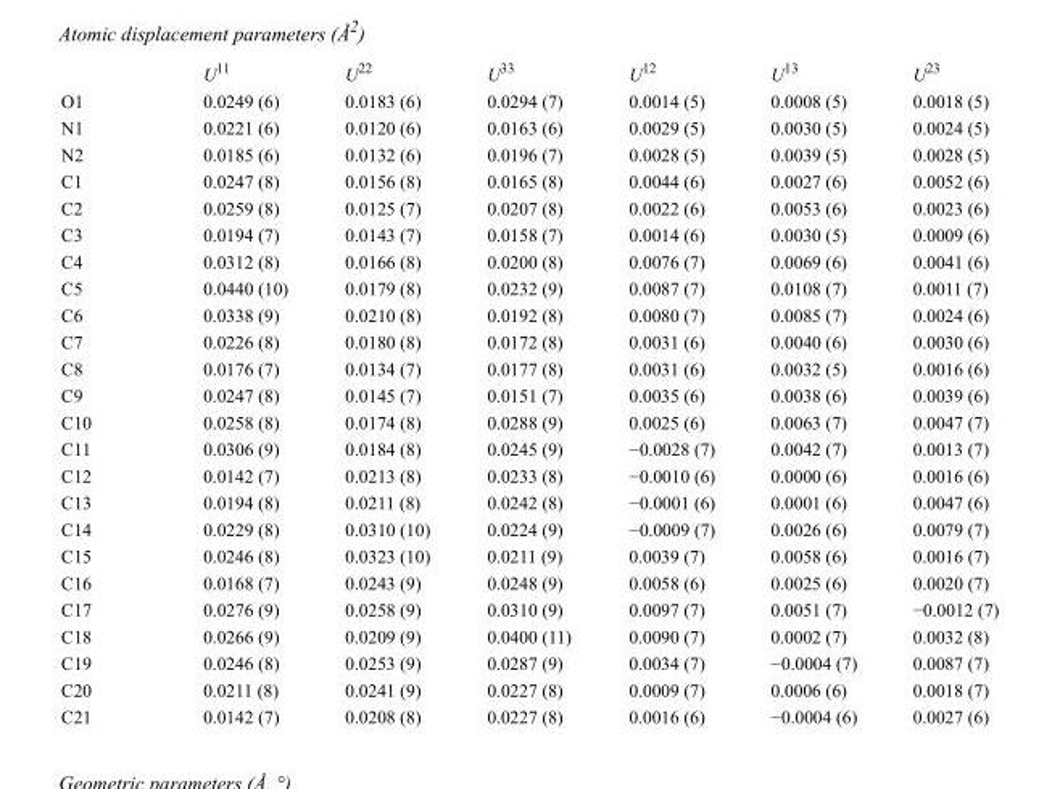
<table><thead><tr><td></td><td>U<sup>11</sup></td><td>U<sup>22</sup></td><td>U<sup>33</sup></td><td>U<sup>12</sup></td><td>U<sup>13</sup></td><td>U<sup>23</sup></td></tr></thead><tbody><tr><td>O1</td><td>0.0249 (6)</td><td>0.0183 (6)</td><td>0.0294 (7)</td><td>0.0014 (5)</td><td>0.0008 (5)</td><td>0.0018 (5)</td></tr><tr><td>N1</td><td>0.0221 (6)</td><td>0.0120 (6)</td><td>0.0163 (6)</td><td>0.0029 (5)</td><td>0.0030 (5)</td><td>0.0024 (5)</td></tr><tr><td>N2</td><td>0.0185 (6)</td><td>0.0132 (6)</td><td>0.0196 (7)</td><td>0.0028 (5)</td><td>0.0039 (5)</td><td>0.0028 (5)</td></tr><tr><td>C1</td><td>0.0247 (8)</td><td>0.0156 (8)</td><td>0.0165 (8)</td><td>0.0044 (6)</td><td>0.0027 (6)</td><td>0.0052 (6)</td></tr><tr><td>C2</td><td>0.0259 (8)</td><td>0.0125 (7)</td><td>0.0207 (8)</td><td>0.0022 (6)</td><td>0.0053 (6)</td><td>0.0023 (6)</td></tr><tr><td>C3</td><td>0.0194 (7)</td><td>0.0143 (7)</td><td>0.0158 (7)</td><td>0.0014 (6)</td><td>0.0030 (5)</td><td>0.0009 (6)</td></tr><tr><td>C4</td><td>0.0312 (8)</td><td>0.0166 (8)</td><td>0.0200 (8)</td><td>0.0076 (7)</td><td>0.0069 (6)</td><td>0.0041 (6)</td></tr><tr><td>C5</td><td>0.0440 (10)</td><td>0.0179 (8)</td><td>0.0232 (9)</td><td>0.0087 (7)</td><td>0.0108 (7)</td><td>0.0011 (7)</td></tr><tr><td>C6</td><td>0.0338 (9)</td><td>0.0210 (8)</td><td>0.0192 (8)</td><td>0.0080 (7)</td><td>0.0085 (7)</td><td>0.0024 (6)</td></tr><tr><td>C7</td><td>0.0226 (8)</td><td>0.0180 (8)</td><td>0.0172 (8)</td><td>0.0031 (6)</td><td>0.0040 (6)</td><td>0.0030 (6)</td></tr><tr><td>C8</td><td>0.0176 (7)</td><td>0.0134 (7)</td><td>0.0177 (8)</td><td>0.0031 (6)</td><td>0.0032 (5)</td><td>0.0016 (6)</td></tr><tr><td>C9</td><td>0.0247 (8)</td><td>0.0145 (7)</td><td>0.0151 (7)</td><td>0.0035 (6)</td><td>0.0038 (6)</td><td>0.0039 (6)</td></tr><tr><td>C10</td><td>0.0258 (8)</td><td>0.0174 (8)</td><td>0.0288 (9)</td><td>0.0025 (6)</td><td>0.0063 (7)</td><td>0.0047 (7)</td></tr><tr><td>C11</td><td>0.0306 (9)</td><td>0.0184 (8)</td><td>0.0245 (9)</td><td>−0.0028 (7)</td><td>0.0042 (7)</td><td>0.0013 (7)</td></tr><tr><td>C12</td><td>0.0142 (7)</td><td>0.0213 (8)</td><td>0.0233 (8)</td><td>−0.0010 (6)</td><td>0.0000 (6)</td><td>0.0016 (6)</td></tr><tr><td>C13</td><td>0.0194 (8)</td><td>0.0211 (8)</td><td>0.0242 (8)</td><td>−0.0001 (6)</td><td>0.0001 (6)</td><td>0.0047 (6)</td></tr><tr><td>C14</td><td>0.0229 (8)</td><td>0.0310 (10)</td><td>0.0224 (9)</td><td>−0.0009 (7)</td><td>0.0026 (6)</td><td>0.0079 (7)</td></tr><tr><td>C15</td><td>0.0246 (8)</td><td>0.0323 (10)</td><td>0.0211 (9)</td><td>0.0039 (7)</td><td>0.0058 (6)</td><td>0.0016 (7)</td></tr><tr><td>C16</td><td>0.0168 (7)</td><td>0.0243 (9)</td><td>0.0248 (9)</td><td>0.0058 (6)</td><td>0.0025 (6)</td><td>0.0020 (7)</td></tr><tr><td>C17</td><td>0.0276 (9)</td><td>0.0258 (9)</td><td>0.0310 (9)</td><td>0.0097 (7)</td><td>0.0051 (7)</td><td>−0.0012 (7)</td></tr><tr><td>C18</td><td>0.0266 (9)</td><td>0.0209 (9)</td><td>0.0400 (11)</td><td>0.0090 (7)</td><td>0.0002 (7)</td><td>0.0032 (8)</td></tr><tr><td>C19</td><td>0.0246 (8)</td><td>0.0253 (9)</td><td>0.0287 (9)</td><td>0.0034 (7)</td><td>−0.0004 (7)</td><td>0.0087 (7)</td></tr><tr><td>C20</td><td>0.0211 (8)</td><td>0.0241 (9)</td><td>0.0227 (8)</td><td>0.0009 (7)</td><td>0.0006 (6)</td><td>0.0018 (7)</td></tr><tr><td>C21</td><td>0.0142 (7)</td><td>0.0208 (8)</td><td>0.0227 (8)</td><td>0.0016 (6)</td><td>−0.0004 (6)</td><td>0.0027 (6)</td></tr></tbody></table>